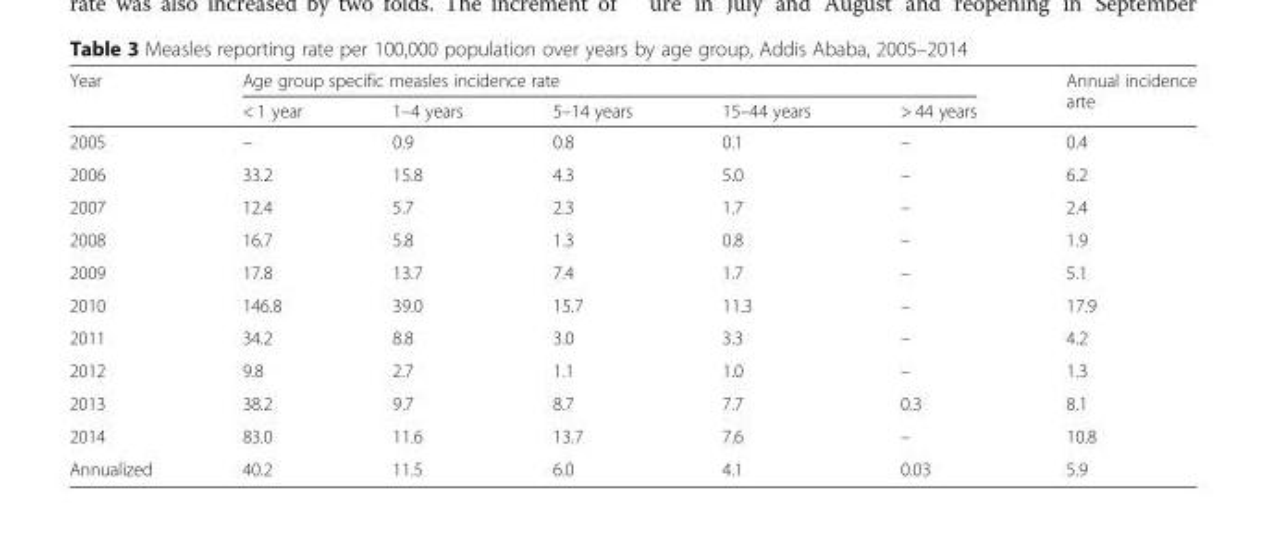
<table><thead><tr><td rowspan="2">Year</td><td colspan="5">Age group specific measles incidence rate</td><td rowspan="2">Annual incidence arte</td></tr><tr><td>&lt; 1 year</td><td>1–4 years</td><td>5–14 years</td><td>15–44 years</td><td>&gt; 44 years</td></tr></thead><tbody><tr><td>2005</td><td>–</td><td>0.9</td><td>0.8</td><td>0.1</td><td>–</td><td>0.4</td></tr><tr><td>2006</td><td>33.2</td><td>15.8</td><td>4.3</td><td>5.0</td><td>–</td><td>6.2</td></tr><tr><td>2007</td><td>12.4</td><td>5.7</td><td>2.3</td><td>1.7</td><td>–</td><td>2.4</td></tr><tr><td>2008</td><td>16.7</td><td>5.8</td><td>1.3</td><td>0.8</td><td>–</td><td>1.9</td></tr><tr><td>2009</td><td>17.8</td><td>13.7</td><td>7.4</td><td>1.7</td><td>–</td><td>5.1</td></tr><tr><td>2010</td><td>146.8</td><td>39.0</td><td>15.7</td><td>11.3</td><td>–</td><td>17.9</td></tr><tr><td>2011</td><td>34.2</td><td>8.8</td><td>3.0</td><td>3.3</td><td>–</td><td>4.2</td></tr><tr><td>2012</td><td>9.8</td><td>2.7</td><td>1.1</td><td>1.0</td><td>–</td><td>1.3</td></tr><tr><td>2013</td><td>38.2</td><td>9.7</td><td>8.7</td><td>7.7</td><td>0.3</td><td>8.1</td></tr><tr><td>2014</td><td>83.0</td><td>11.6</td><td>13.7</td><td>7.6</td><td>–</td><td>10.8</td></tr><tr><td>Annualized</td><td>40.2</td><td>11.5</td><td>6.0</td><td>4.1</td><td>0.03</td><td>5.9</td></tr></tbody></table>